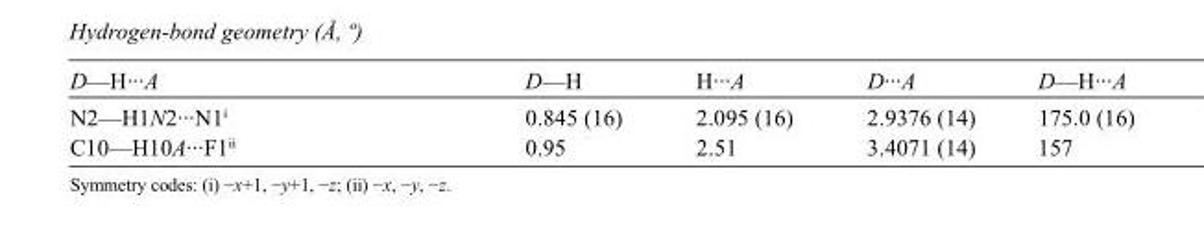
<table><tbody><tr><td>D—H···A</td><td>D—H</td><td>H···A</td><td>D···A</td><td>D—H···A</td></tr><tr><td>N2—H1N2···N1<sup>i</sup></td><td>0.845 (16)</td><td>2.095 (16)</td><td>2.9376 (14)</td><td>175.0 (16)</td></tr><tr><td>C10—H10A···F1<sup>ii</sup></td><td>0.95</td><td>2.51</td><td>3.4071 (14)</td><td>157</td></tr></tbody></table>